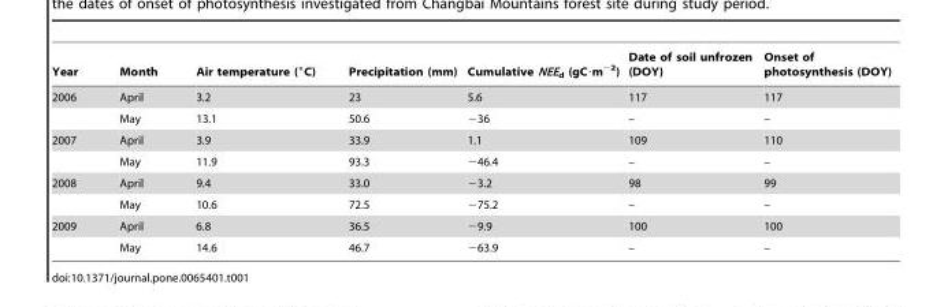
<table><thead><tr><td>Year</td><td>Month</td><td>Air temperature (°C)</td><td>Precipitation (mm)</td><td>Cumulative NEE<sub>d</sub> (gC·m<sup>−2</sup>)</td><td>Date of soil unfrozen (DOY)</td><td>Onset of photosynthesis (DOY)</td></tr></thead><tbody><tr><td rowspan="2">2006</td><td>April</td><td>3.2</td><td>23</td><td>5.6</td><td>117</td><td>117</td></tr><tr><td>May</td><td>13.1</td><td>50.6</td><td>−36</td><td>–</td><td>–</td></tr><tr><td rowspan="2">2007</td><td>April</td><td>3.9</td><td>33.9</td><td>1.1</td><td>109</td><td>110</td></tr><tr><td>May</td><td>11.9</td><td>93.3</td><td>−46.4</td><td>–</td><td>–</td></tr><tr><td rowspan="2">2008</td><td>April</td><td>9.4</td><td>33.0</td><td>−3.2</td><td>98</td><td>99</td></tr><tr><td>May</td><td>10.6</td><td>72.5</td><td>−75.2</td><td>–</td><td>–</td></tr><tr><td rowspan="2">2009</td><td>April</td><td>6.8</td><td>36.5</td><td>−9.9</td><td>100</td><td>100</td></tr><tr><td>May</td><td>14.6</td><td>46.7</td><td>−63.9</td><td>–</td><td>–</td></tr></tbody></table>